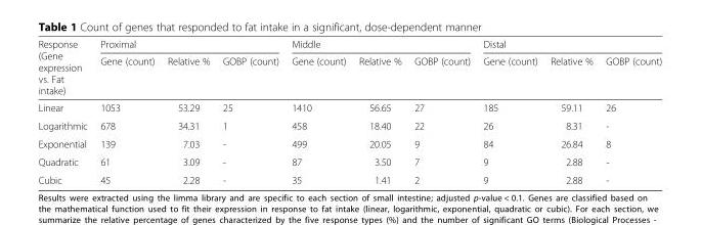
<table><thead><tr><td rowspan="2">Response (Gene expression vs. Fat intake)</td><td colspan="3">Proximal</td><td colspan="3">Middle</td><td colspan="3">Distal</td></tr><tr><td>Gene (count)</td><td>Relative %</td><td>GOBP (count)</td><td>Gene (count)</td><td>Relative %</td><td>GOBP (count)</td><td>Gene (count)</td><td>Relative %</td><td>GOBP (count)</td></tr></thead><tbody><tr><td>Linear</td><td>1053</td><td>53.29</td><td>25</td><td>1410</td><td>56.65</td><td>27</td><td>185</td><td>59.11</td><td>26</td></tr><tr><td>Logarithmic</td><td>678</td><td>34.31</td><td>1</td><td>458</td><td>18.40</td><td>22</td><td>26</td><td>8.31</td><td>-</td></tr><tr><td>Exponential</td><td>139</td><td>7.03</td><td>-</td><td>499</td><td>20.05</td><td>9</td><td>84</td><td>26.84</td><td>8</td></tr><tr><td>Quadratic</td><td>61</td><td>3.09</td><td>-</td><td>87</td><td>3.50</td><td>7</td><td>9</td><td>2.88</td><td>-</td></tr><tr><td>Cubic</td><td>45</td><td>2.28</td><td>-</td><td>35</td><td>1.41</td><td>2</td><td>9</td><td>2.88</td><td>-</td></tr></tbody></table>